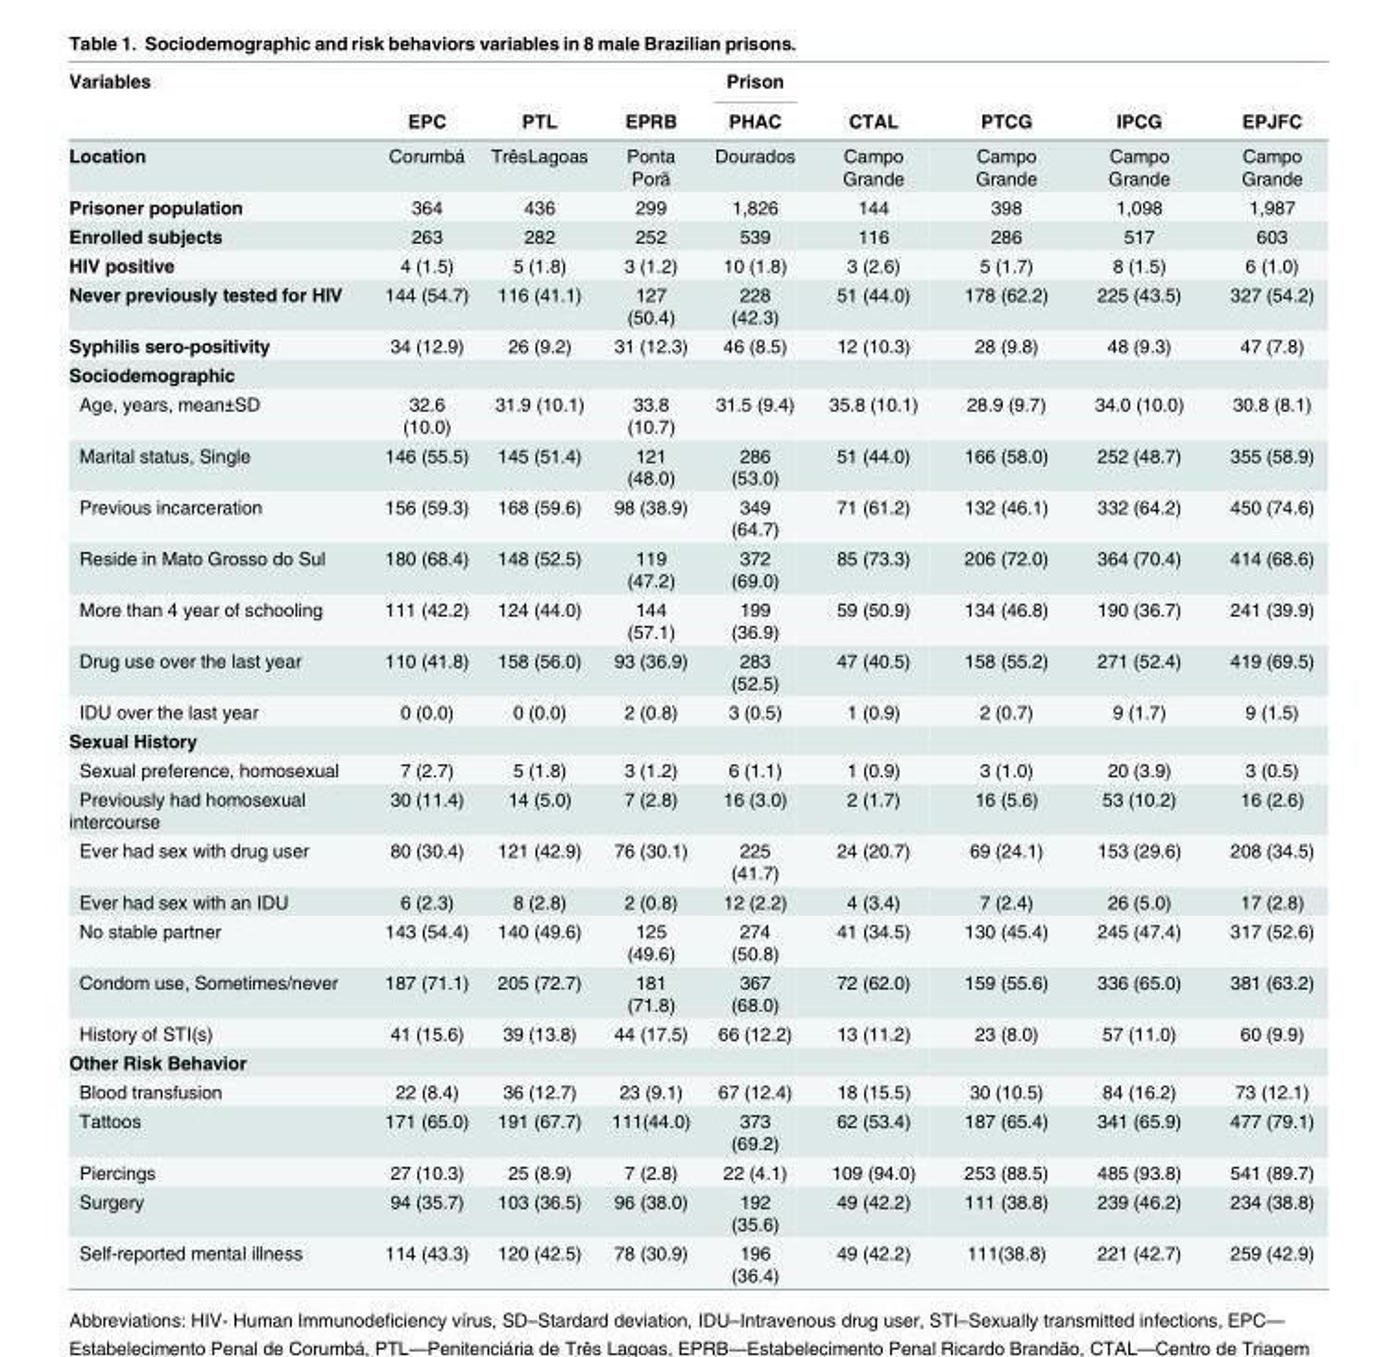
<table><thead><tr><td rowspan="2">Variables</td><td rowspan="2">EPC</td><td rowspan="2">PTL</td><td rowspan="2">EPRB</td><td rowspan="2">Prison PHAC</td><td rowspan="2">CTAL</td><td rowspan="2">PTCG</td><td rowspan="2">IPCG</td><td rowspan="2">EPJFC</td></tr><tr></tr></thead><tbody><tr><td>Location</td><td>Corumbá</td><td>TrêsLagoas</td><td>Ponta Porã</td><td>Dourados</td><td>Campo Grande</td><td>Campo Grande</td><td>Campo Grande</td><td>Campo Grande</td></tr><tr><td>Prisoner population</td><td>364</td><td>436</td><td>299</td><td>1,826</td><td>144</td><td>398</td><td>1,098</td><td>1,987</td></tr><tr><td>Enrolled subjects</td><td>263</td><td>282</td><td>252</td><td>539</td><td>116</td><td>286</td><td>517</td><td>603</td></tr><tr><td>HIV positive</td><td>4 (1.5)</td><td>5 (1.8)</td><td>3 (1.2)</td><td>10 (1.8)</td><td>3 (2.6)</td><td>5 (1.7)</td><td>8 (1.5)</td><td>6 (1.0)</td></tr><tr><td>Never previously tested for HIV</td><td>144 (54.7)</td><td>116 (41.1)</td><td>127 (50.4)</td><td>228 (42.3)</td><td>51 (44.0)</td><td>178 (62.2)</td><td>225 (43.5)</td><td>327 (54.2)</td></tr><tr><td>Syphilis sero-positivity</td><td>34 (12.9)</td><td>26 (9.2)</td><td>31 (12.3)</td><td>46 (8.5)</td><td>12 (10.3)</td><td>28 (9.8)</td><td>48 (9.3)</td><td>47 (7.8)</td></tr><tr><td colspan="9">Sociodemographic</td></tr><tr><td>Age, years, mean±SD</td><td>32.6 (10.0)</td><td>31.9 (10.1)</td><td>33.8 (10.7)</td><td>31.5 (9.4)</td><td>35.8 (10.1)</td><td>28.9 (9.7)</td><td>34.0 (10.0)</td><td>30.8 (8.1)</td></tr><tr><td>Marital status, Single</td><td>146 (55.5)</td><td>145 (51.4)</td><td>121 (48.0)</td><td>286 (53.0)</td><td>51 (44.0)</td><td>166 (58.0)</td><td>252 (48.7)</td><td>355 (58.9)</td></tr><tr><td>Previous incarceration</td><td>156 (59.3)</td><td>168 (59.6)</td><td>98 (38.9)</td><td>349 (64.7)</td><td>71 (61.2)</td><td>132 (46.1)</td><td>332 (64.2)</td><td>450 (74.6)</td></tr><tr><td>Reside in Mato Grosso do Sul</td><td>180 (68.4)</td><td>148 (52.5)</td><td>119 (47.2)</td><td>372 (69.0)</td><td>85 (73.3)</td><td>206 (72.0)</td><td>364 (70.4)</td><td>414 (68.6)</td></tr><tr><td>More than 4 year of schooling</td><td>111 (42.2)</td><td>124 (44.0)</td><td>144 (57.1)</td><td>199 (36.9)</td><td>59 (50.9)</td><td>134 (46.8)</td><td>190 (36.7)</td><td>241 (39.9)</td></tr><tr><td>Drug use over the last year</td><td>110 (41.8)</td><td>158 (56.0)</td><td>93 (36.9)</td><td>283 (52.5)</td><td>47 (40.5)</td><td>158 (55.2)</td><td>271 (52.4)</td><td>419 (69.5)</td></tr><tr><td>IDU over the last year</td><td>0 (0.0)</td><td>0 (0.0)</td><td>2 (0.8)</td><td>3 (0.5)</td><td>1 (0.9)</td><td>2 (0.7)</td><td>9 (1.7)</td><td>9 (1.5)</td></tr><tr><td colspan="9">Sexual History</td></tr><tr><td>Sexual preference, homosexual</td><td>7 (2.7)</td><td>5 (1.8)</td><td>3 (1.2)</td><td>6 (1.1)</td><td>1 (0.9)</td><td>3 (1.0)</td><td>20 (3.9)</td><td>3 (0.5)</td></tr><tr><td>Previously had homosexual intercourse</td><td>30 (11.4)</td><td>14 (5.0)</td><td>7 (2.8)</td><td>16 (3.0)</td><td>2 (1.7)</td><td>16 (5.6)</td><td>53 (10.2)</td><td>16 (2.6)</td></tr><tr><td>Ever had sex with drug user</td><td>80 (30.4)</td><td>121 (42.9)</td><td>76 (30.1)</td><td>225 (41.7)</td><td>24 (20.7)</td><td>69 (24.1)</td><td>153 (29.6)</td><td>208 (34.5)</td></tr><tr><td>Ever had sex with an IDU</td><td>6 (2.3)</td><td>8 (2.8)</td><td>2 (0.8)</td><td>12 (2.2)</td><td>4 (3.4)</td><td>7 (2.4)</td><td>26 (5.0)</td><td>17 (2.8)</td></tr><tr><td>No stable partner</td><td>143 (54.4)</td><td>140 (49.6)</td><td>125 (49.6)</td><td>274 (50.8)</td><td>41 (34.5)</td><td>130 (45.4)</td><td>245 (47.4)</td><td>317 (52.6)</td></tr><tr><td>Condom use, Sometimes/never</td><td>187 (71.1)</td><td>205 (72.7)</td><td>181 (71.8)</td><td>367 (68.0)</td><td>72 (62.0)</td><td>159 (55.6)</td><td>336 (65.0)</td><td>381 (63.2)</td></tr><tr><td>History of STI(s)</td><td>41 (15.6)</td><td>39 (13.8)</td><td>44 (17.5)</td><td>66 (12.2)</td><td>13 (11.2)</td><td>23 (8.0)</td><td>57 (11.0)</td><td>60 (9.9)</td></tr><tr><td colspan="9">Other Risk Behavior</td></tr><tr><td>Blood transfusion</td><td>22 (8.4)</td><td>36 (12.7)</td><td>23 (9.1)</td><td>67 (12.4)</td><td>18 (15.5)</td><td>30 (10.5)</td><td>84 (16.2)</td><td>73 (12.1)</td></tr><tr><td>Tattoos</td><td>171 (65.0)</td><td>191 (67.7)</td><td>111(44.0)</td><td>373 (69.2)</td><td>62 (53.4)</td><td>187 (65.4)</td><td>341 (65.9)</td><td>477 (79.1)</td></tr><tr><td>Piercings</td><td>27 (10.3)</td><td>25 (8.9)</td><td>7 (2.8)</td><td>22 (4.1)</td><td>109 (94.0)</td><td>253 (88.5)</td><td>485 (93.8)</td><td>541 (89.7)</td></tr><tr><td>Surgery</td><td>94 (35.7)</td><td>103 (36.5)</td><td>96 (38.0)</td><td>192 (35.6)</td><td>49 (42.2)</td><td>111 (38.8)</td><td>239 (46.2)</td><td>234 (38.8)</td></tr><tr><td>Self-reported mental illness</td><td>114 (43.3)</td><td>120 (42.5)</td><td>78 (30.9)</td><td>196 (36.4)</td><td>49 (42.2)</td><td>111(38.8)</td><td>221 (42.7)</td><td>259 (42.9)</td></tr></tbody></table>